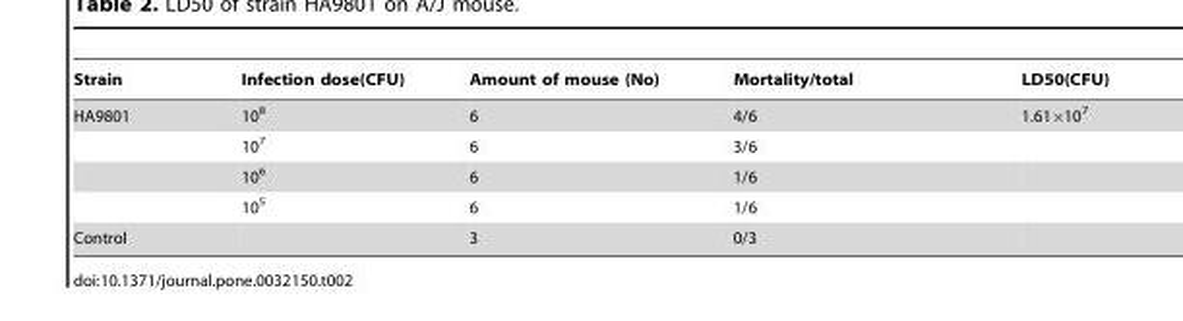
<table><thead><tr><td>Strain</td><td>Infection dose(CFU)</td><td>Amount of mouse (No)</td><td>Mortality/total</td><td>LD50(CFU)</td></tr></thead><tbody><tr><td rowspan="4">HA9801</td><td>10<sup>8</sup></td><td>6</td><td>4/6</td><td>1.61×10<sup>7</sup></td></tr><tr><td>10<sup>7</sup></td><td>6</td><td>3/6</td><td></td></tr><tr><td>10<sup>6</sup></td><td>6</td><td>1/6</td><td></td></tr><tr><td>10<sup>5</sup></td><td>6</td><td>1/6</td><td></td></tr><tr><td>Control</td><td></td><td>3</td><td>0/3</td><td></td></tr></tbody></table>